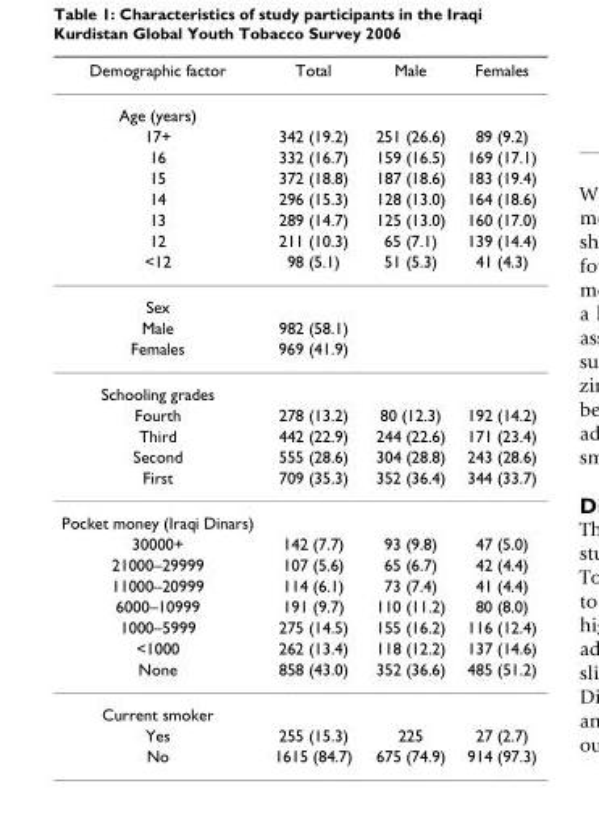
<table><thead><tr><td>Demographic factor</td><td>Total</td><td>Male</td><td>Females</td></tr></thead><tbody><tr><td colspan="4">Age (years)</td></tr><tr><td>17+</td><td>342 (19.2)</td><td>251 (26.6)</td><td>89 (9.2)</td></tr><tr><td>16</td><td>332 (16.7)</td><td>159 (16.5)</td><td>169 (17.1)</td></tr><tr><td>15</td><td>372 (18.8)</td><td>187 (18.6)</td><td>183 (19.4)</td></tr><tr><td>14</td><td>296 (15.3)</td><td>128 (13.0)</td><td>164 (18.6)</td></tr><tr><td>13</td><td>289 (14.7)</td><td>125 (13.0)</td><td>160 (17.0)</td></tr><tr><td>12</td><td>211 (10.3)</td><td>65 (7.1)</td><td>139 (14.4)</td></tr><tr><td>&lt;12</td><td>98 (5.1)</td><td>51 (5.3)</td><td>41 (4.3)</td></tr><tr><td colspan="4">Sex</td></tr><tr><td>Male</td><td>982 (58.1)</td><td></td><td></td></tr><tr><td>Females</td><td>969 (41.9)</td><td></td><td></td></tr><tr><td colspan="4">Schooling grades</td></tr><tr><td>Fourth</td><td>278 (13.2)</td><td>80 (12.3)</td><td>192 (14.2)</td></tr><tr><td>Third</td><td>442 (22.9)</td><td>244 (22.6)</td><td>171 (23.4)</td></tr><tr><td>Second</td><td>555 (28.6)</td><td>304 (28.8)</td><td>243 (28.6)</td></tr><tr><td>First</td><td>709 (35.3)</td><td>352 (36.4)</td><td>344 (33.7)</td></tr><tr><td colspan="4">Pocket money (Iraqi Dinars)</td></tr><tr><td>30000+</td><td>142 (7.7)</td><td>93 (9.8)</td><td>47 (5.0)</td></tr><tr><td>21000–29999</td><td>107 (5.6)</td><td>65 (6.7)</td><td>42 (4.4)</td></tr><tr><td>11000–20999</td><td>114 (6.1)</td><td>73 (7.4)</td><td>41 (4.4)</td></tr><tr><td>6000–10999</td><td>191 (9.7)</td><td>110 (11.2)</td><td>80 (8.0)</td></tr><tr><td>1000–5999</td><td>275 (14.5)</td><td>155 (16.2)</td><td>116 (12.4)</td></tr><tr><td>&lt;1000</td><td>262 (13.4)</td><td>118 (12.2)</td><td>137 (14.6)</td></tr><tr><td>None</td><td>858 (43.0)</td><td>352 (36.6)</td><td>485 (51.2)</td></tr><tr><td colspan="4">Current smoker</td></tr><tr><td>Yes</td><td>255 (15.3)</td><td>225</td><td>27 (2.7)</td></tr><tr><td>No</td><td>1615 (84.7)</td><td>675 (74.9)</td><td>914 (97.3)</td></tr></tbody></table>